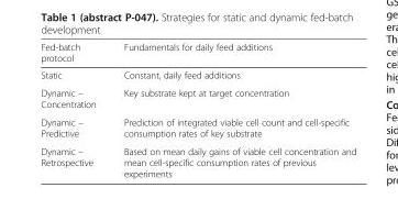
<table><thead><tr><td>Fed-batch protocol</td><td>Fundamentals for daily feed additions</td></tr></thead><tbody><tr><td>Static</td><td>Constant, daily feed additions</td></tr><tr><td>Dynamic – Concentration</td><td>Key substrate kept at target concentration</td></tr><tr><td>Dynamic – Predictive</td><td>Prediction of integrated viable cell count and cell-specific consumption rates of key substrate</td></tr><tr><td>Dynamic – Retrospective</td><td>Based on mean daily gains of viable cell concentration and mean cell-specific consumption rates of previous experiments</td></tr></tbody></table>